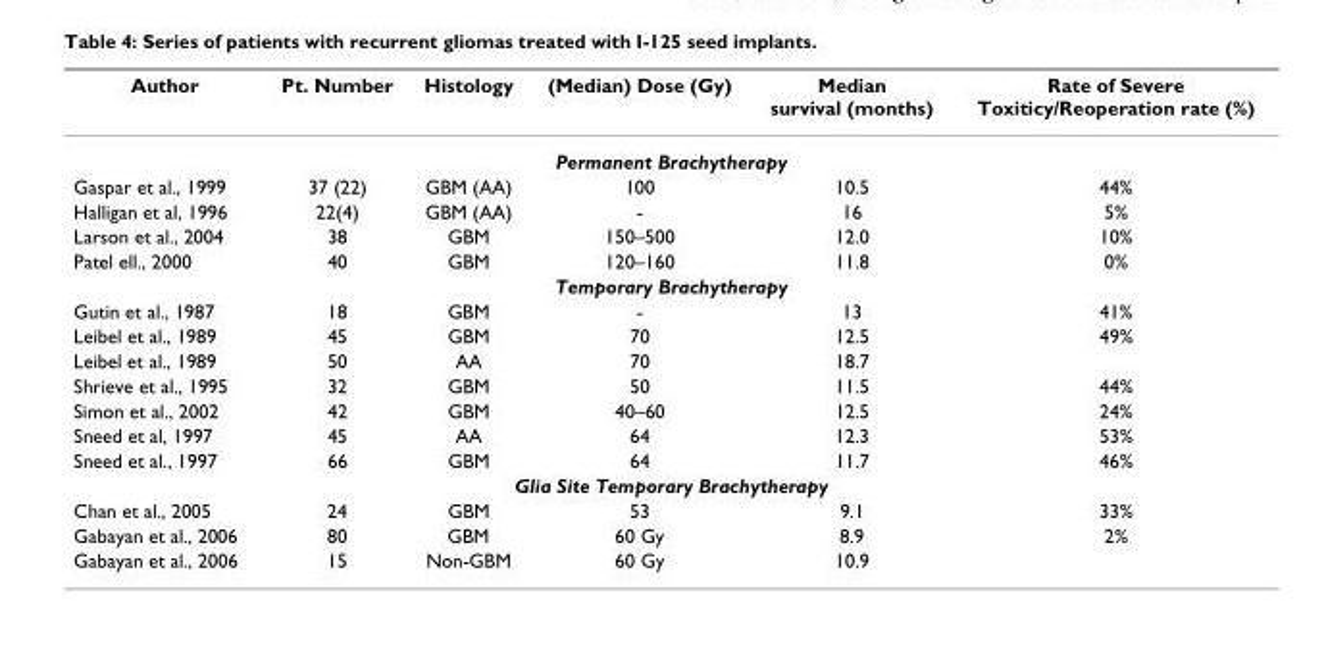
<table><thead><tr><td>Author</td><td>Pt. Number</td><td>Histology</td><td>(Median) Dose (Gy)</td><td>Median survival (months)</td><td>Rate of Severe Toxiticy/Reoperation rate (%)</td></tr></thead><tbody><tr><td colspan="6">Permanent Brachytherapy</td></tr><tr><td>Gaspar et al., 1999</td><td>37 (22)</td><td>GBM (AA)</td><td>100</td><td>10.5</td><td>44%</td></tr><tr><td>Halligan et al, 1996</td><td>22(4)</td><td>GBM (AA)</td><td>-</td><td>16</td><td>5%</td></tr><tr><td>Larson et al., 2004</td><td>38</td><td>GBM</td><td>150–500</td><td>12.0</td><td>10%</td></tr><tr><td>Patel ell., 2000</td><td>40</td><td>GBM</td><td>120–160</td><td>11.8</td><td>0%</td></tr><tr><td colspan="6">Temporary Brachytherapy</td></tr><tr><td>Gutin et al., 1987</td><td>18</td><td>GBM</td><td>-</td><td>13</td><td>41%</td></tr><tr><td>Leibel et al., 1989</td><td>45</td><td>GBM</td><td>70</td><td>12.5</td><td>49%</td></tr><tr><td>Leibel et al., 1989</td><td>50</td><td>AA</td><td>70</td><td>18.7</td><td></td></tr><tr><td>Shrieve et al., 1995</td><td>32</td><td>GBM</td><td>50</td><td>11.5</td><td>44%</td></tr><tr><td>Simon et al., 2002</td><td>42</td><td>GBM</td><td>40–60</td><td>12.5</td><td>24%</td></tr><tr><td>Sneed et al, 1997</td><td>45</td><td>AA</td><td>64</td><td>12.3</td><td>53%</td></tr><tr><td>Sneed et al., 1997</td><td>66</td><td>GBM</td><td>64</td><td>11.7</td><td>46%</td></tr><tr><td colspan="6">Glia Site Temporary Brachytherapy</td></tr><tr><td>Chan et al., 2005</td><td>24</td><td>GBM</td><td>53</td><td>9.1</td><td>33%</td></tr><tr><td>Gabayan et al., 2006</td><td>80</td><td>GBM</td><td>60 Gy</td><td>8.9</td><td>2%</td></tr><tr><td>Gabayan et al., 2006</td><td>15</td><td>Non-GBM</td><td>60 Gy</td><td>10.9</td><td></td></tr></tbody></table>